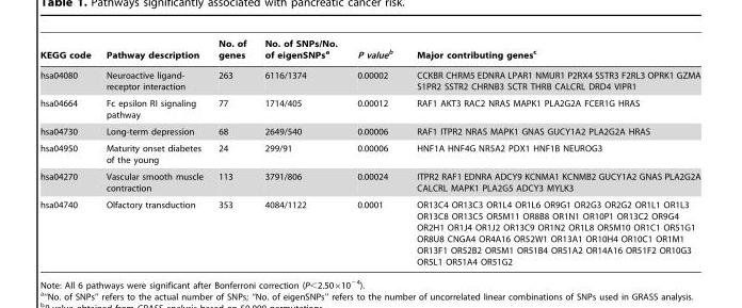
<table><thead><tr><td>KEGG code</td><td>Pathway description</td><td>No. of genes</td><td>No. of SNPs/No. of eigenSNPs<sup>a</sup></td><td>P valueb</td><td>Major contributing genes<sup>c</sup></td></tr></thead><tbody><tr><td>hsa04080</td><td>Neuroactive ligand- receptor interaction</td><td>263</td><td>6116/1374</td><td>0.00002</td><td>CCKBR CHRM5 EDNRA LPAR1 NMUR1 P2RX4 SSTR3 F2RL3 OPRK1 GZMA S1PR2 SSTR2 CHRNB3 SCTR THRB CALCRL DRD4 VIPR1</td></tr><tr><td>hsa04664</td><td>Fc epsilon RI signaling pathway</td><td>77</td><td>1714/405</td><td>0.00012</td><td>RAF1 AKT3 RAC2 NRAS MAPK1 PLA2G2A FCER1G HRAS</td></tr><tr><td>hsa04730</td><td>Long-term depression</td><td>68</td><td>2649/540</td><td>0.00006</td><td>RAF1 ITPR2 NRAS MAPK1 GNAS GUCY1A2 PLA2G2A HRAS</td></tr><tr><td>hsa04950</td><td>Maturity onset diabetes of the young</td><td>24</td><td>299/91</td><td>0.00006</td><td>HNF1A HNF4G NR5A2 PDX1 HNF1B NEUROG3</td></tr><tr><td>hsa04270</td><td>Vascular smooth muscle contraction</td><td>113</td><td>3791/806</td><td>0.00024</td><td>ITPR2 RAF1 EDNRA ADCY9 KCNMA1 KCNMB2 GUCY1A2 GNAS PLA2G2A CALCRL MAPK1 PLA2G5 ADCY3 MYLK3</td></tr><tr><td>hsa04740</td><td>Olfactory transduction</td><td>353</td><td>4084/1122</td><td>0.0001</td><td>OR13C4 OR13C3 OR1L4 OR1L6 OR9G1 OR2G3 OR2G2 OR1L1 OR1L3 OR13C8 OR13C5 OR5M11 OR8B8 OR1N1 OR10P1 OR13C2 OR9G4 OR2H1 OR1J4 OR1J2 OR13C9 OR1N2 OR1L8 OR5M10 OR1C1 OR51G1 OR8U8 CNGA4 OR4A16 OR52W1 OR13A1 OR10H4 OR10C1 OR1M1 OR13F1 OR52B2 OR5M1 OR51B4 OR51A2 OR14A16 OR51F2 OR10G3 OR5L1 OR51A4 OR51G2</td></tr></tbody></table>